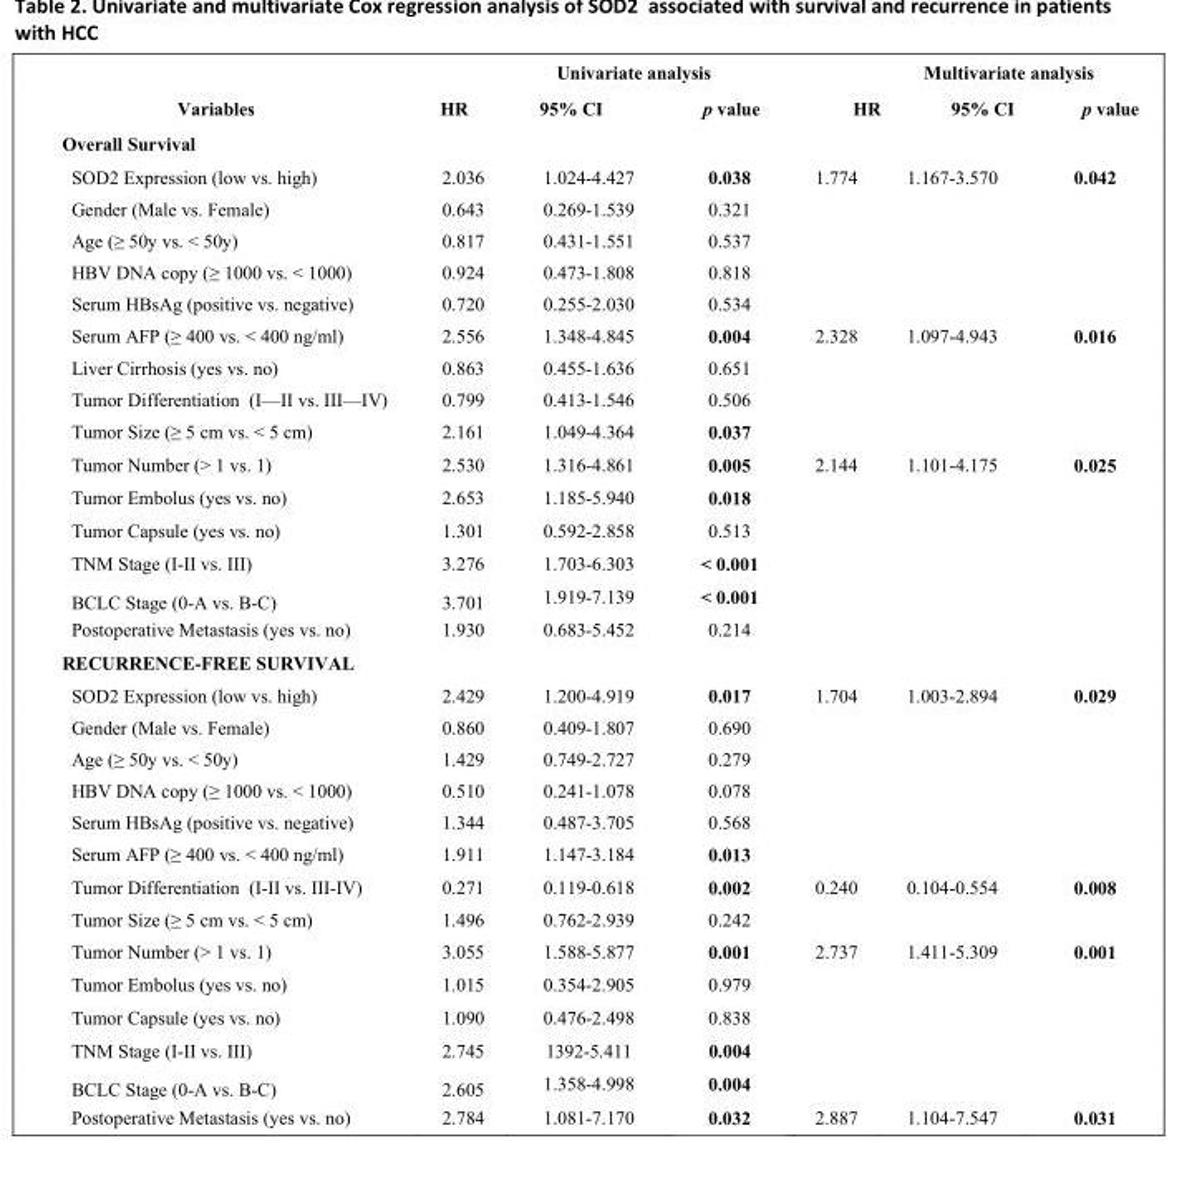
<table><thead><tr><td rowspan="2">Variables</td><td colspan="3">Univariate analysis</td><td colspan="3">Multivariate analysis</td></tr><tr><td>HR</td><td>95% CI</td><td>p value</td><td>HR</td><td>95% CI</td><td>p value</td></tr></thead><tbody><tr><td colspan="7">Overall Survival</td></tr><tr><td>SOD2 Expression (low vs. high)</td><td>2.036</td><td>1.024-4.427</td><td>0.038</td><td>1.774</td><td>1.167-3.570</td><td>0.042</td></tr><tr><td>Gender (Male vs. Female)</td><td>0.643</td><td>0.269-1.539</td><td>0.321</td><td></td><td></td><td></td></tr><tr><td>Age (≥ 50y vs. &lt; 50y)</td><td>0.817</td><td>0.431-1.551</td><td>0.537</td><td></td><td></td><td></td></tr><tr><td>HBV DNA copy (≥ 1000 vs. &lt; 1000)</td><td>0.924</td><td>0.473-1.808</td><td>0.818</td><td></td><td></td><td></td></tr><tr><td>Serum HBsAg (positive vs. negative)</td><td>0.720</td><td>0.255-2.030</td><td>0.534</td><td></td><td></td><td></td></tr><tr><td>Serum AFP (≥ 400 vs. &lt; 400 ng/ml)</td><td>2.556</td><td>1.348-4.845</td><td>0.004</td><td>2.328</td><td>1.097-4.943</td><td>0.016</td></tr><tr><td>Liver Cirrhosis (yes vs. no)</td><td>0.863</td><td>0.455-1.636</td><td>0.651</td><td></td><td></td><td></td></tr><tr><td>Tumor Differentiation (I—II vs. III—IV)</td><td>0.799</td><td>0.413-1.546</td><td>0.506</td><td></td><td></td><td></td></tr><tr><td>Tumor Size (≥ 5 cm vs. &lt; 5 cm)</td><td>2.161</td><td>1.049-4.364</td><td>0.037</td><td></td><td></td><td></td></tr><tr><td>Tumor Number (&gt; 1 vs. 1)</td><td>2.530</td><td>1.316-4.861</td><td>0.005</td><td>2.144</td><td>1.101-4.175</td><td>0.025</td></tr><tr><td>Tumor Embolus (yes vs. no)</td><td>2.653</td><td>1.185-5.940</td><td>0.018</td><td></td><td></td><td></td></tr><tr><td>Tumor Capsule (yes vs. no)</td><td>1.301</td><td>0.592-2.858</td><td>0.513</td><td></td><td></td><td></td></tr><tr><td>TNM Stage (I-II vs. III)</td><td>3.276</td><td>1.703-6.303</td><td>&lt; 0.001</td><td></td><td></td><td></td></tr><tr><td>BCLC Stage (0-A vs. B-C)</td><td>3.701</td><td>1.919-7.139</td><td>&lt; 0.001</td><td></td><td></td><td></td></tr><tr><td>Postoperative Metastasis (yes vs. no)</td><td>1.930</td><td>0.683-5.452</td><td>0.214</td><td></td><td></td><td></td></tr><tr><td colspan="7">RECURRENCE-FREE SURVIVAL</td></tr><tr><td>SOD2 Expression (low vs. high)</td><td>2.429</td><td>1.200-4.919</td><td>0.017</td><td>1.704</td><td>1.003-2.894</td><td>0.029</td></tr><tr><td>Gender (Male vs. Female)</td><td>0.860</td><td>0.409-1.807</td><td>0.690</td><td></td><td></td><td></td></tr><tr><td>Age (≥ 50y vs. &lt; 50y)</td><td>1.429</td><td>0.749-2.727</td><td>0.279</td><td></td><td></td><td></td></tr><tr><td>HBV DNA copy (≥ 1000 vs. &lt; 1000)</td><td>0.510</td><td>0.241-1.078</td><td>0.078</td><td></td><td></td><td></td></tr><tr><td>Serum HBsAg (positive vs. negative)</td><td>1.344</td><td>0.487-3.705</td><td>0.568</td><td></td><td></td><td></td></tr><tr><td>Serum AFP (≥ 400 vs. &lt; 400 ng/ml)</td><td>1.911</td><td>1.147-3.184</td><td>0.013</td><td></td><td></td><td></td></tr><tr><td>Tumor Differentiation (I-II vs. III-IV)</td><td>0.271</td><td>0.119-0.618</td><td>0.002</td><td>0.240</td><td>0.104-0.554</td><td>0.008</td></tr><tr><td>Tumor Size (≥ 5 cm vs. &lt; 5 cm)</td><td>1.496</td><td>0.762-2.939</td><td>0.242</td><td></td><td></td><td></td></tr><tr><td>Tumor Number (&gt; 1 vs. 1)</td><td>3.055</td><td>1.588-5.877</td><td>0.001</td><td>2.737</td><td>1.411-5.309</td><td>0.001</td></tr><tr><td>Tumor Embolus (yes vs. no)</td><td>1.015</td><td>0.354-2.905</td><td>0.979</td><td></td><td></td><td></td></tr><tr><td>Tumor Capsule (yes vs. no)</td><td>1.090</td><td>0.476-2.498</td><td>0.838</td><td></td><td></td><td></td></tr><tr><td>TNM Stage (I-II vs. III)</td><td>2.745</td><td>1392-5.411</td><td>0.004</td><td></td><td></td><td></td></tr><tr><td>BCLC Stage (0-A vs. B-C)</td><td>2.605</td><td>1.358-4.998</td><td>0.004</td><td></td><td></td><td></td></tr><tr><td>Postoperative Metastasis (yes vs. no)</td><td>2.784</td><td>1.081-7.170</td><td>0.032</td><td>2.887</td><td>1.104-7.547</td><td>0.031</td></tr></tbody></table>